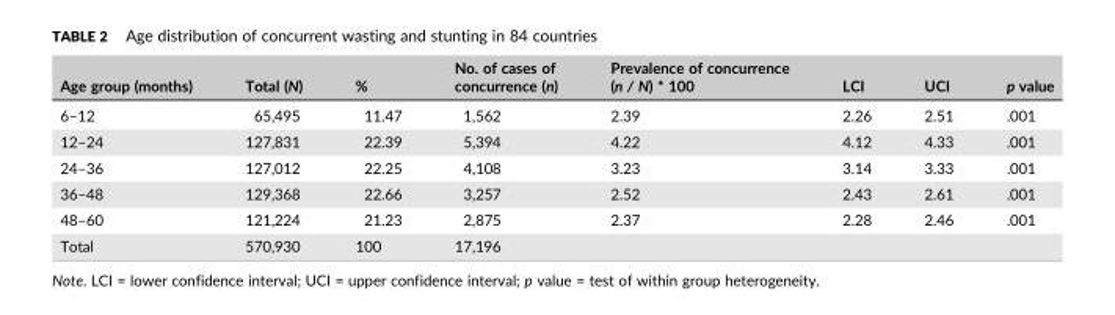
<table><thead><tr><td>Age group (months)</td><td>Total (N)</td><td>%</td><td>No. of cases of concurrence (n)</td><td>Prevalence of concurrence (n / N) * 100</td><td>LCI</td><td>UCI</td><td>p value</td></tr></thead><tbody><tr><td>6–12</td><td>65,495</td><td>11.47</td><td>1,562</td><td>2.39</td><td>2.26</td><td>2.51</td><td>.001</td></tr><tr><td>12–24</td><td>127,831</td><td>22.39</td><td>5,394</td><td>4.22</td><td>4.12</td><td>4.33</td><td>.001</td></tr><tr><td>24–36</td><td>127,012</td><td>22.25</td><td>4,108</td><td>3.23</td><td>3.14</td><td>3.33</td><td>.001</td></tr><tr><td>36–48</td><td>129,368</td><td>22.66</td><td>3,257</td><td>2.52</td><td>2.43</td><td>2.61</td><td>.001</td></tr><tr><td>48–60</td><td>121,224</td><td>21.23</td><td>2,875</td><td>2.37</td><td>2.28</td><td>2.46</td><td>.001</td></tr><tr><td>Total</td><td>570,930</td><td>100</td><td>17,196</td><td></td><td></td><td></td><td></td></tr></tbody></table>